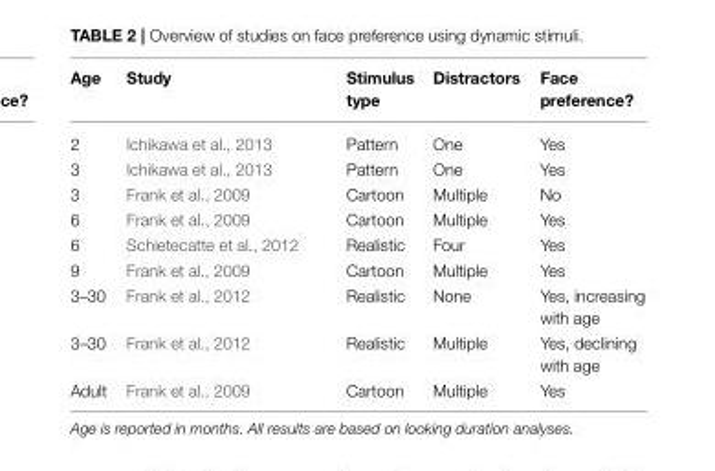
<table><thead><tr><td>Age</td><td>Study</td><td>Stimulus type</td><td>Distractors</td><td>Face preference?</td></tr></thead><tbody><tr><td>2</td><td>Ichikawa et al., 2013</td><td>Pattern</td><td>One</td><td>Yes</td></tr><tr><td>3</td><td>Ichikawa et al., 2013</td><td>Pattern</td><td>One</td><td>Yes</td></tr><tr><td>3</td><td>Frank et al., 2009</td><td>Cartoon</td><td>Multiple</td><td>No</td></tr><tr><td>6</td><td>Frank et al., 2009</td><td>Cartoon</td><td>Multiple</td><td>Yes</td></tr><tr><td>6</td><td>Schietecatte et al., 2012</td><td>Realistic</td><td>Four</td><td>Yes</td></tr><tr><td>9</td><td>Frank et al., 2009</td><td>Cartoon</td><td>Multiple</td><td>Yes</td></tr><tr><td>3–30</td><td>Frank et al., 2012</td><td>Realistic</td><td>None</td><td>Yes, increasing with age</td></tr><tr><td>3–30</td><td>Frank et al., 2012</td><td>Realistic</td><td>Multiple</td><td>Yes, declining with age</td></tr><tr><td>Adult</td><td>Frank et al., 2009</td><td>Cartoon</td><td>Multiple</td><td>Yes</td></tr></tbody></table>